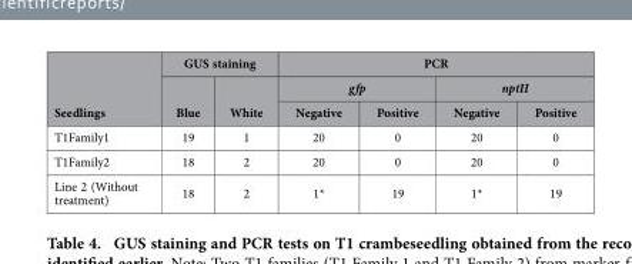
<table><thead><tr><td rowspan="3">Seedlings</td><td colspan="2">GUS staining</td><td colspan="4">PCR</td></tr><tr><td rowspan="2">Blue</td><td rowspan="2">White</td><td colspan="2">gfp</td><td colspan="2">nptII</td></tr><tr><td>Negative</td><td>Positive</td><td>Negative</td><td>Positive</td></tr></thead><tbody><tr><td>T1Family1</td><td>19</td><td>1</td><td>20</td><td>0</td><td>20</td><td>0</td></tr><tr><td>T1Family2</td><td>18</td><td>2</td><td>20</td><td>0</td><td>20</td><td>0</td></tr><tr><td>Line 2 (Without treatment)</td><td>18</td><td>2</td><td>1*</td><td>19</td><td>1*</td><td>19</td></tr></tbody></table>